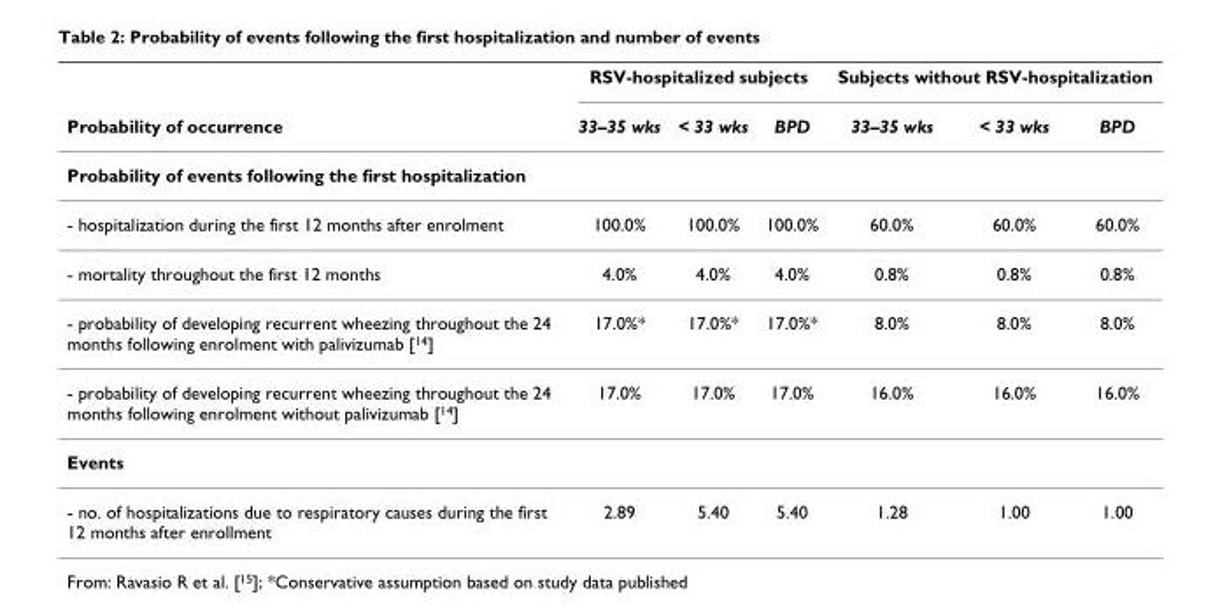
<table><thead><tr><td rowspan="2">Probability of occurrence</td><td colspan="3">RSV-hospitalized subjects</td><td colspan="3">Subjects without RSV-hospitalization</td></tr><tr><td>33–35 wks</td><td>&lt; 33 wks</td><td>BPD</td><td>33–35 wks</td><td>&lt; 33 wks</td><td>BPD</td></tr></thead><tbody><tr><td colspan="7">Probability of events following the first hospitalization</td></tr><tr><td>- hospitalization during the first 12 months after enrolment</td><td>100.0%</td><td>100.0%</td><td>100.0%</td><td>60.0%</td><td>60.0%</td><td>60.0%</td></tr><tr><td>- mortality throughout the first 12 months</td><td>4.0%</td><td>4.0%</td><td>4.0%</td><td>0.8%</td><td>0.8%</td><td>0.8%</td></tr><tr><td>- probability of developing recurrent wheezing throughout the 24 months following enrolment with palivizumab [<sup>14</sup>]</td><td>17.0%*</td><td>17.0%*</td><td>17.0%*</td><td>8.0%</td><td>8.0%</td><td>8.0%</td></tr><tr><td>- probability of developing recurrent wheezing throughout the 24 months following enrolment without palivizumab [<sup>14</sup>]</td><td>17.0%</td><td>17.0%</td><td>17.0%</td><td>16.0%</td><td>16.0%</td><td>16.0%</td></tr><tr><td colspan="7">Events</td></tr><tr><td>- no. of hospitalizations due to respiratory causes during the first 12 months after enrollment</td><td>2.89</td><td>5.40</td><td>5.40</td><td>1.28</td><td>1.00</td><td>1.00</td></tr></tbody></table>